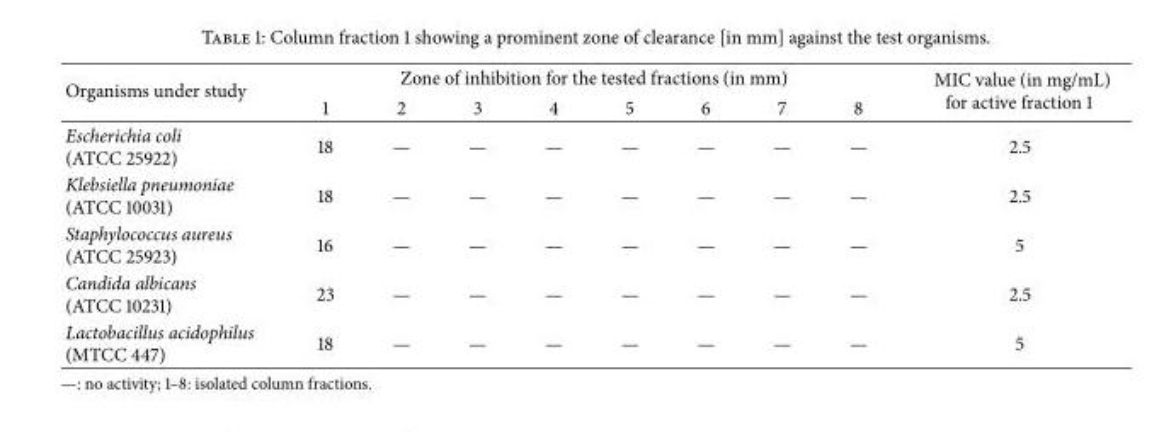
<table><thead><tr><td rowspan="2">Organisms under study</td><td colspan="8">Zone of inhibition for the tested fractions (in mm)</td><td rowspan="2">MIC value (in mg/mL) for active fraction 1</td></tr><tr><td>1</td><td>2</td><td>3</td><td>4</td><td>5</td><td>6</td><td>7</td><td>8</td></tr></thead><tbody><tr><td>Escherichia coli (ATCC 25922)</td><td>18</td><td>—</td><td>—</td><td>—</td><td>—</td><td>—</td><td>—</td><td>—</td><td>2.5</td></tr><tr><td>Klebsiella pneumoniae (ATCC 10031)</td><td>18</td><td>—</td><td>—</td><td>—</td><td>—</td><td>—</td><td>—</td><td>—</td><td>2.5</td></tr><tr><td>Staphylococcus aureus (ATCC 25923)</td><td>16</td><td>—</td><td>—</td><td>—</td><td>—</td><td>—</td><td>—</td><td>—</td><td>5</td></tr><tr><td>Candida albicans (ATCC 10231)</td><td>23</td><td>—</td><td>—</td><td>—</td><td>—</td><td>—</td><td>—</td><td>—</td><td>2.5</td></tr><tr><td>Lactobacillus acidophilus (MTCC 447)</td><td>18</td><td>—</td><td>—</td><td>—</td><td>—</td><td>—</td><td>—</td><td>—</td><td>5</td></tr></tbody></table>